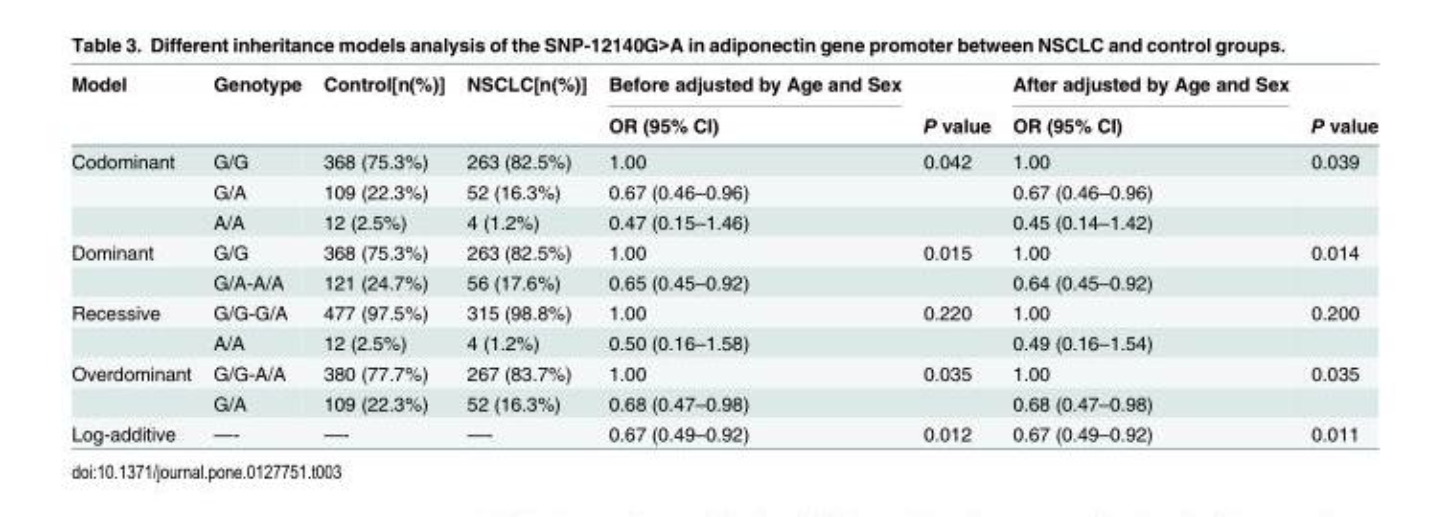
<table><thead><tr><td rowspan="2">Model</td><td rowspan="2">Genotype</td><td rowspan="2">Control[n(%)]</td><td rowspan="2">NSCLC[n(%)]</td><td rowspan="2">Before adjusted by Age and Sex OR (95% CI)</td><td rowspan="2">P value</td><td rowspan="2">After adjusted by Age and Sex OR (95% CI)</td><td rowspan="2">P value</td></tr><tr></tr></thead><tbody><tr><td rowspan="3">Codominant</td><td>G/G</td><td>368 (75.3%)</td><td>263 (82.5%)</td><td>1.00</td><td>0.042</td><td>1.00</td><td>0.039</td></tr><tr><td>G/A</td><td>109 (22.3%)</td><td>52 (16.3%)</td><td>0.67 (0.46–0.96)</td><td></td><td>0.67 (0.46–0.96)</td><td></td></tr><tr><td>A/A</td><td>12 (2.5%)</td><td>4 (1.2%)</td><td>0.47 (0.15–1.46)</td><td></td><td>0.45 (0.14–1.42)</td><td></td></tr><tr><td rowspan="2">Dominant</td><td>G/G</td><td>368 (75.3%)</td><td>263 (82.5%)</td><td>1.00</td><td>0.015</td><td>1.00</td><td>0.014</td></tr><tr><td>G/A-A/A</td><td>121 (24.7%)</td><td>56 (17.6%)</td><td>0.65 (0.45–0.92)</td><td></td><td>0.64 (0.45–0.92)</td><td></td></tr><tr><td rowspan="2">Recessive</td><td>G/G-G/A</td><td>477 (97.5%)</td><td>315 (98.8%)</td><td>1.00</td><td>0.220</td><td>1.00</td><td>0.200</td></tr><tr><td>A/A</td><td>12 (2.5%)</td><td>4 (1.2%)</td><td>0.50 (0.16–1.58)</td><td></td><td>0.49 (0.16–1.54)</td><td></td></tr><tr><td rowspan="2">Overdominant</td><td>G/G-A/A</td><td>380 (77.7%)</td><td>267 (83.7%)</td><td>1.00</td><td>0.035</td><td>1.00</td><td>0.035</td></tr><tr><td>G/A</td><td>109 (22.3%)</td><td>52 (16.3%)</td><td>0.68 (0.47–0.98)</td><td></td><td>0.68 (0.47–0.98)</td><td></td></tr><tr><td>Log-additive</td><td>—-</td><td>—-</td><td>—-</td><td>0.67 (0.49–0.92)</td><td>0.012</td><td>0.67 (0.49–0.92)</td><td>0.011</td></tr></tbody></table>